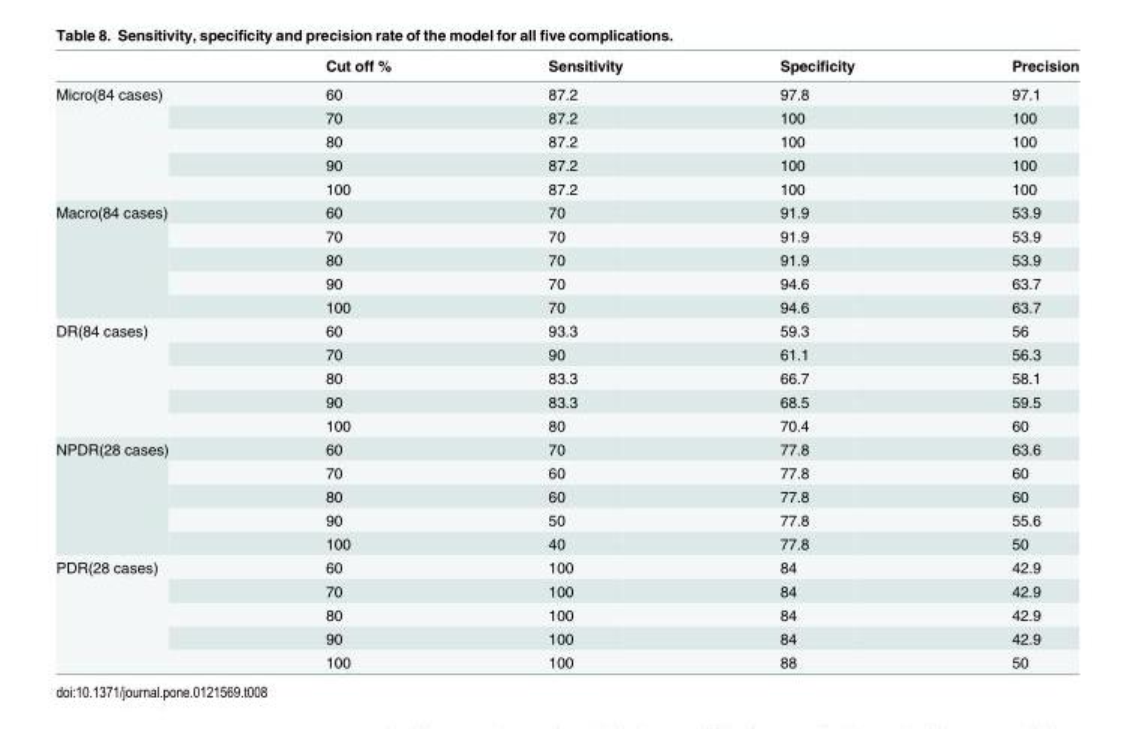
<table><thead><tr><td></td><td>Cut off %</td><td>Sensitivity</td><td>Specificity</td><td>Precision</td></tr></thead><tbody><tr><td rowspan="5">Micro(84 cases)</td><td>60</td><td>87.2</td><td>97.8</td><td>97.1</td></tr><tr><td>70</td><td>87.2</td><td>100</td><td>100</td></tr><tr><td>80</td><td>87.2</td><td>100</td><td>100</td></tr><tr><td>90</td><td>87.2</td><td>100</td><td>100</td></tr><tr><td>100</td><td>87.2</td><td>100</td><td>100</td></tr><tr><td rowspan="5">Macro(84 cases)</td><td>60</td><td>70</td><td>91.9</td><td>53.9</td></tr><tr><td>70</td><td>70</td><td>91.9</td><td>53.9</td></tr><tr><td>80</td><td>70</td><td>91.9</td><td>53.9</td></tr><tr><td>90</td><td>70</td><td>94.6</td><td>63.7</td></tr><tr><td>100</td><td>70</td><td>94.6</td><td>63.7</td></tr><tr><td rowspan="5">DR(84 cases)</td><td>60</td><td>93.3</td><td>59.3</td><td>56</td></tr><tr><td>70</td><td>90</td><td>61.1</td><td>56.3</td></tr><tr><td>80</td><td>83.3</td><td>66.7</td><td>58.1</td></tr><tr><td>90</td><td>83.3</td><td>68.5</td><td>59.5</td></tr><tr><td>100</td><td>80</td><td>70.4</td><td>60</td></tr><tr><td rowspan="5">NPDR(28 cases)</td><td>60</td><td>70</td><td>77.8</td><td>63.6</td></tr><tr><td>70</td><td>60</td><td>77.8</td><td>60</td></tr><tr><td>80</td><td>60</td><td>77.8</td><td>60</td></tr><tr><td>90</td><td>50</td><td>77.8</td><td>55.6</td></tr><tr><td>100</td><td>40</td><td>77.8</td><td>50</td></tr><tr><td rowspan="5">PDR(28 cases)</td><td>60</td><td>100</td><td>84</td><td>42.9</td></tr><tr><td>70</td><td>100</td><td>84</td><td>42.9</td></tr><tr><td>80</td><td>100</td><td>84</td><td>42.9</td></tr><tr><td>90</td><td>100</td><td>84</td><td>42.9</td></tr><tr><td>100</td><td>100</td><td>88</td><td>50</td></tr></tbody></table>